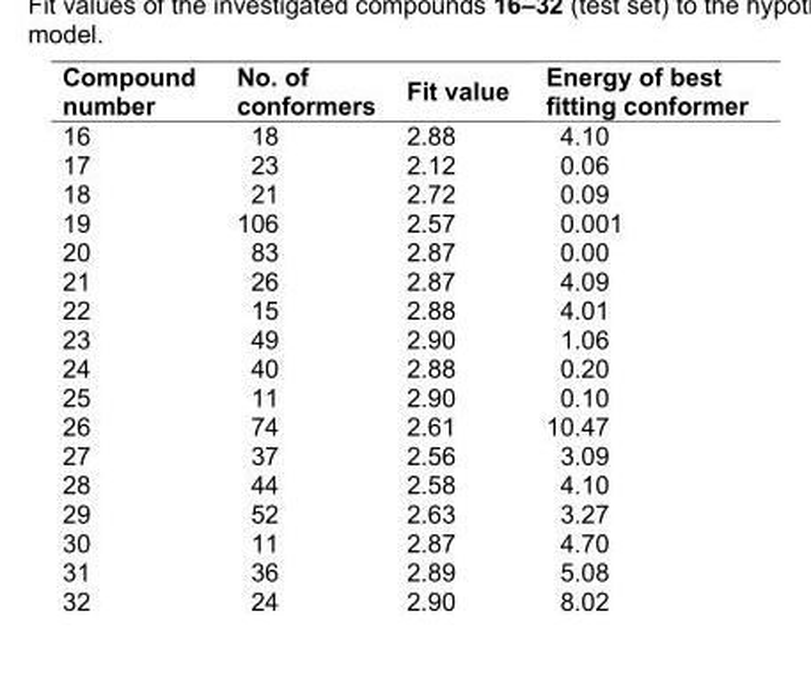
<table><thead><tr><td>Compound number</td><td>No. of conformers</td><td>Fit value</td><td>Energy of best fitting conformer</td></tr></thead><tbody><tr><td>16</td><td>18</td><td>2.88</td><td>4.10</td></tr><tr><td>17</td><td>23</td><td>2.12</td><td>0.06</td></tr><tr><td>18</td><td>21</td><td>2.72</td><td>0.09</td></tr><tr><td>19</td><td>106</td><td>2.57</td><td>0.001</td></tr><tr><td>20</td><td>83</td><td>2.87</td><td>0.00</td></tr><tr><td>21</td><td>26</td><td>2.87</td><td>4.09</td></tr><tr><td>22</td><td>15</td><td>2.88</td><td>4.01</td></tr><tr><td>23</td><td>49</td><td>2.90</td><td>1.06</td></tr><tr><td>24</td><td>40</td><td>2.88</td><td>0.20</td></tr><tr><td>25</td><td>11</td><td>2.90</td><td>0.10</td></tr><tr><td>26</td><td>74</td><td>2.61</td><td>10.47</td></tr><tr><td>27</td><td>37</td><td>2.56</td><td>3.09</td></tr><tr><td>28</td><td>44</td><td>2.58</td><td>4.10</td></tr><tr><td>29</td><td>52</td><td>2.63</td><td>3.27</td></tr><tr><td>30</td><td>11</td><td>2.87</td><td>4.70</td></tr><tr><td>31</td><td>36</td><td>2.89</td><td>5.08</td></tr><tr><td>32</td><td>24</td><td>2.90</td><td>8.02</td></tr></tbody></table>